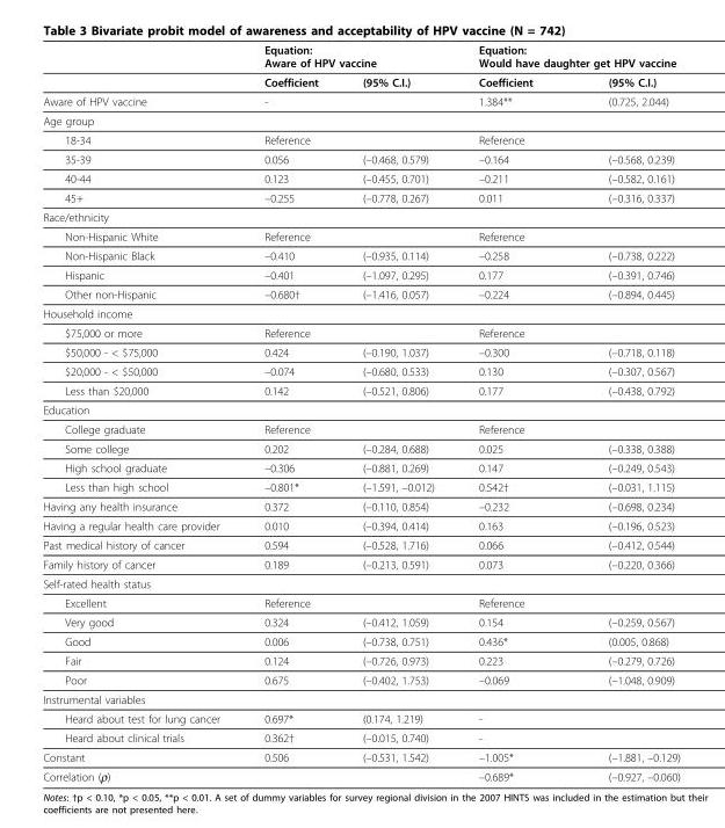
<table><thead><tr><td rowspan="2"></td><td colspan="2">Equation: Aware of HPV vaccine</td><td colspan="2">Equation: Would have daughter get HPV vaccine</td></tr><tr><td>Coefficient</td><td>(95% C.I.)</td><td>Coefficient</td><td>(95% C.I.)</td></tr></thead><tbody><tr><td>Aware of HPV vaccine</td><td>-</td><td></td><td>1.384**</td><td>(0.725, 2.044)</td></tr><tr><td colspan="5">Age group</td></tr><tr><td>18-34</td><td>Reference</td><td></td><td>Reference</td><td></td></tr><tr><td>35-39</td><td>0.056</td><td>(–0.468, 0.579)</td><td>–0.164</td><td>(–0.568, 0.239)</td></tr><tr><td>40-44</td><td>0.123</td><td>(–0.455, 0.701)</td><td>–0.211</td><td>(–0.582, 0.161)</td></tr><tr><td>45+</td><td>–0.255</td><td>(–0.778, 0.267)</td><td>0.011</td><td>(–0.316, 0.337)</td></tr><tr><td colspan="5">Race/ethnicity</td></tr><tr><td>Non-Hispanic White</td><td>Reference</td><td></td><td>Reference</td><td></td></tr><tr><td>Non-Hispanic Black</td><td>–0.410</td><td>(–0.935, 0.114)</td><td>–0.258</td><td>(–0.738, 0.222)</td></tr><tr><td>Hispanic</td><td>–0.401</td><td>(–1.097, 0.295)</td><td>0.177</td><td>(–0.391, 0.746)</td></tr><tr><td>Other non-Hispanic</td><td>–0.680†</td><td>(–1.416, 0.057)</td><td>–0.224</td><td>(–0.894, 0.445)</td></tr><tr><td colspan="5">Household income</td></tr><tr><td>$75,000 or more</td><td>Reference</td><td></td><td>Reference</td><td></td></tr><tr><td>$50,000 - &lt; $75,000</td><td>0.424</td><td>(–0.190, 1.037)</td><td>–0.300</td><td>(–0.718, 0.118)</td></tr><tr><td>$20,000 - &lt; $50,000</td><td>–0.074</td><td>(–0.680, 0.533)</td><td>0.130</td><td>(–0.307, 0.567)</td></tr><tr><td>Less than $20,000</td><td>0.142</td><td>(–0.521, 0.806)</td><td>0.177</td><td>(–0.438, 0.792)</td></tr><tr><td colspan="5">Education</td></tr><tr><td>College graduate</td><td>Reference</td><td></td><td>Reference</td><td></td></tr><tr><td>Some college</td><td>0.202</td><td>(–0.284, 0.688)</td><td>0.025</td><td>(–0.338, 0.388)</td></tr><tr><td>High school graduate</td><td>–0.306</td><td>(–0.881, 0.269)</td><td>0.147</td><td>(–0.249, 0.543)</td></tr><tr><td>Less than high school</td><td>–0.801*</td><td>(–1.591, –0.012)</td><td>0.542†</td><td>(–0.031, 1.115)</td></tr><tr><td>Having any health insurance</td><td>0.372</td><td>(–0.110, 0.854)</td><td>–0.232</td><td>(–0.698, 0.234)</td></tr><tr><td>Having a regular health care provider</td><td>0.010</td><td>(–0.394, 0.414)</td><td>0.163</td><td>(–0.196, 0.523)</td></tr><tr><td>Past medical history of cancer</td><td>0.594</td><td>(–0.528, 1.716)</td><td>0.066</td><td>(–0.412, 0.544)</td></tr><tr><td>Family history of cancer</td><td>0.189</td><td>(–0.213, 0.591)</td><td>0.073</td><td>(–0.220, 0.366)</td></tr><tr><td colspan="5">Self-rated health status</td></tr><tr><td>Excellent</td><td>Reference</td><td></td><td>Reference</td><td></td></tr><tr><td>Very good</td><td>0.324</td><td>(–0.412, 1.059)</td><td>0.154</td><td>(–0.259, 0.567)</td></tr><tr><td>Good</td><td>0.006</td><td>(–0.738, 0.751)</td><td>0.436*</td><td>(0.005, 0.868)</td></tr><tr><td>Fair</td><td>0.124</td><td>(–0.726, 0.973)</td><td>0.223</td><td>(–0.279, 0.726)</td></tr><tr><td>Poor</td><td>0.675</td><td>(–0.402, 1.753)</td><td>–0.069</td><td>(–1.048, 0.909)</td></tr><tr><td colspan="5">Instrumental variables</td></tr><tr><td>Heard about test for lung cancer</td><td>0.697*</td><td>(0.174, 1.219)</td><td>-</td><td></td></tr><tr><td>Heard about clinical trials</td><td>0.362†</td><td>(–0.015, 0.740)</td><td>-</td><td></td></tr><tr><td>Constant</td><td>0.506</td><td>(–0.531, 1.542)</td><td>–1.005*</td><td>(–1.881, –0.129)</td></tr><tr><td>Correlation (ρ)</td><td></td><td></td><td>–0.689*</td><td>(–0.927, –0.060)</td></tr></tbody></table>